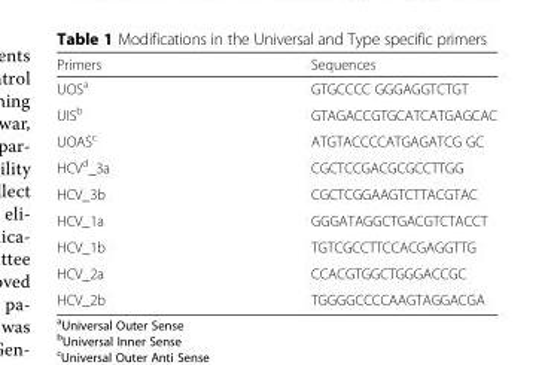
<table><thead><tr><td>Primers</td><td>Sequences</td></tr></thead><tbody><tr><td>UOS<sup>a</sup></td><td>GTGCCCC GGGAGGTCTGT</td></tr><tr><td>UIS<sup>b</sup></td><td>GTAGACCGTGCATCATGAGCAC</td></tr><tr><td>UOAS<sup>c</sup></td><td>ATGTACCCCATGAGATCG GC</td></tr><tr><td>HCV<sup>d</sup>_3a</td><td>CGCTCCGACGCGCCTTGG</td></tr><tr><td>HCV_3b</td><td>CGCTCGGAAGTCTTACGTAC</td></tr><tr><td>HCV_1a</td><td>GGGATAGGCTGACGTCTACCT</td></tr><tr><td>HCV_1b</td><td>TGTCGCCTTCCACGAGGTTG</td></tr><tr><td>HCV_2a</td><td>CCACGTGGCTGGGACCGC</td></tr><tr><td>HCV_2b</td><td>TGGGGCCCCAAGTAGGACGA</td></tr></tbody></table>